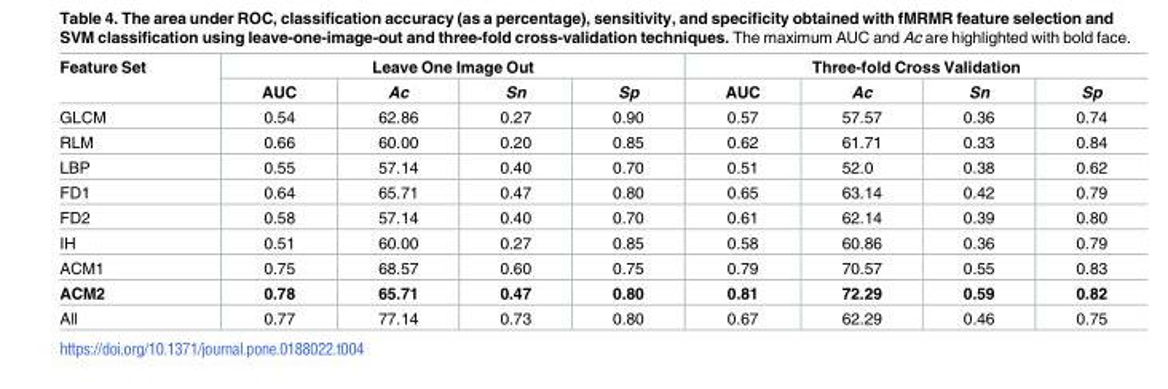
<table><thead><tr><td rowspan="2">Feature Set</td><td colspan="4">Leave One Image Out</td><td colspan="4">Three-fold Cross Validation</td></tr><tr><td>AUC</td><td>Ac</td><td>Sn</td><td>Sp</td><td>AUC</td><td>Ac</td><td>Sn</td><td>Sp</td></tr></thead><tbody><tr><td>GLCM</td><td>0.54</td><td>62.86</td><td>0.27</td><td>0.90</td><td>0.57</td><td>57.57</td><td>0.36</td><td>0.74</td></tr><tr><td>RLM</td><td>0.66</td><td>60.00</td><td>0.20</td><td>0.85</td><td>0.62</td><td>61.71</td><td>0.33</td><td>0.84</td></tr><tr><td>LBP</td><td>0.55</td><td>57.14</td><td>0.40</td><td>0.70</td><td>0.51</td><td>52.0</td><td>0.38</td><td>0.62</td></tr><tr><td>FD1</td><td>0.64</td><td>65.71</td><td>0.47</td><td>0.80</td><td>0.65</td><td>63.14</td><td>0.42</td><td>0.79</td></tr><tr><td>FD2</td><td>0.58</td><td>57.14</td><td>0.40</td><td>0.70</td><td>0.61</td><td>62.14</td><td>0.39</td><td>0.80</td></tr><tr><td>IH</td><td>0.51</td><td>60.00</td><td>0.27</td><td>0.85</td><td>0.58</td><td>60.86</td><td>0.36</td><td>0.79</td></tr><tr><td>ACM1</td><td>0.75</td><td>68.57</td><td>0.60</td><td>0.75</td><td>0.79</td><td>70.57</td><td>0.55</td><td>0.83</td></tr><tr><td>ACM2</td><td>0.78</td><td>65.71</td><td>0.47</td><td>0.80</td><td>0.81</td><td>72.29</td><td>0.59</td><td>0.82</td></tr><tr><td>All</td><td>0.77</td><td>77.14</td><td>0.73</td><td>0.80</td><td>0.67</td><td>62.29</td><td>0.46</td><td>0.75</td></tr></tbody></table>